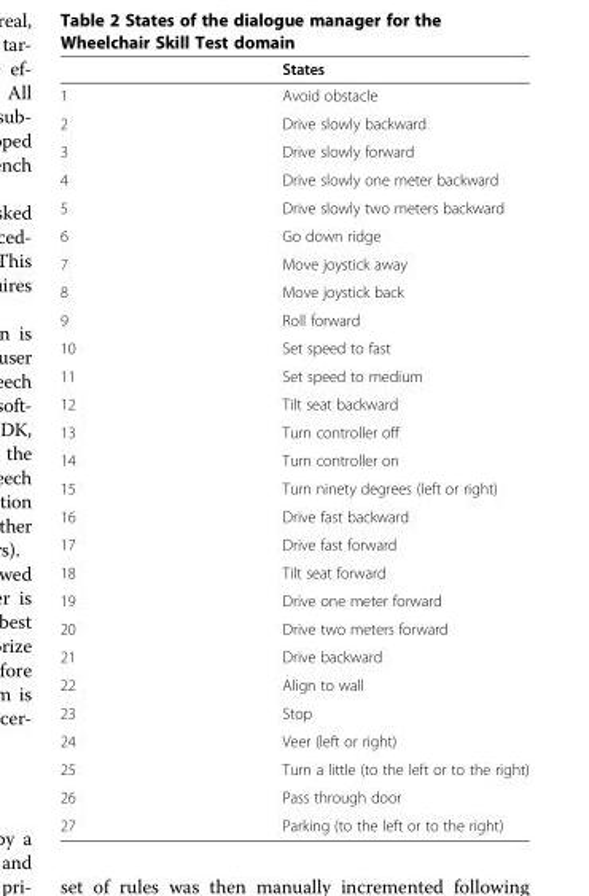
<table><thead><tr><td></td><td>States</td></tr></thead><tbody><tr><td>1</td><td>Avoid obstacle</td></tr><tr><td>2</td><td>Drive slowly backward</td></tr><tr><td>3</td><td>Drive slowly forward</td></tr><tr><td>4</td><td>Drive slowly one meter backward</td></tr><tr><td>5</td><td>Drive slowly two meters backward</td></tr><tr><td>6</td><td>Go down ridge</td></tr><tr><td>7</td><td>Move joystick away</td></tr><tr><td>8</td><td>Move joystick back</td></tr><tr><td>9</td><td>Roll forward</td></tr><tr><td>10</td><td>Set speed to fast</td></tr><tr><td>11</td><td>Set speed to medium</td></tr><tr><td>12</td><td>Tilt seat backward</td></tr><tr><td>13</td><td>Turn controller off</td></tr><tr><td>14</td><td>Turn controller on</td></tr><tr><td>15</td><td>Turn ninety degrees (left or right)</td></tr><tr><td>16</td><td>Drive fast backward</td></tr><tr><td>17</td><td>Drive fast forward</td></tr><tr><td>18</td><td>Tilt seat forward</td></tr><tr><td>19</td><td>Drive one meter forward</td></tr><tr><td>20</td><td>Drive two meters forward</td></tr><tr><td>21</td><td>Drive backward</td></tr><tr><td>22</td><td>Align to wall</td></tr><tr><td>23</td><td>Stop</td></tr><tr><td>24</td><td>Veer (left or right)</td></tr><tr><td>25</td><td>Turn a little (to the left or to the right)</td></tr><tr><td>26</td><td>Pass through door</td></tr><tr><td>27</td><td>Parking (to the left or to the right)</td></tr></tbody></table>